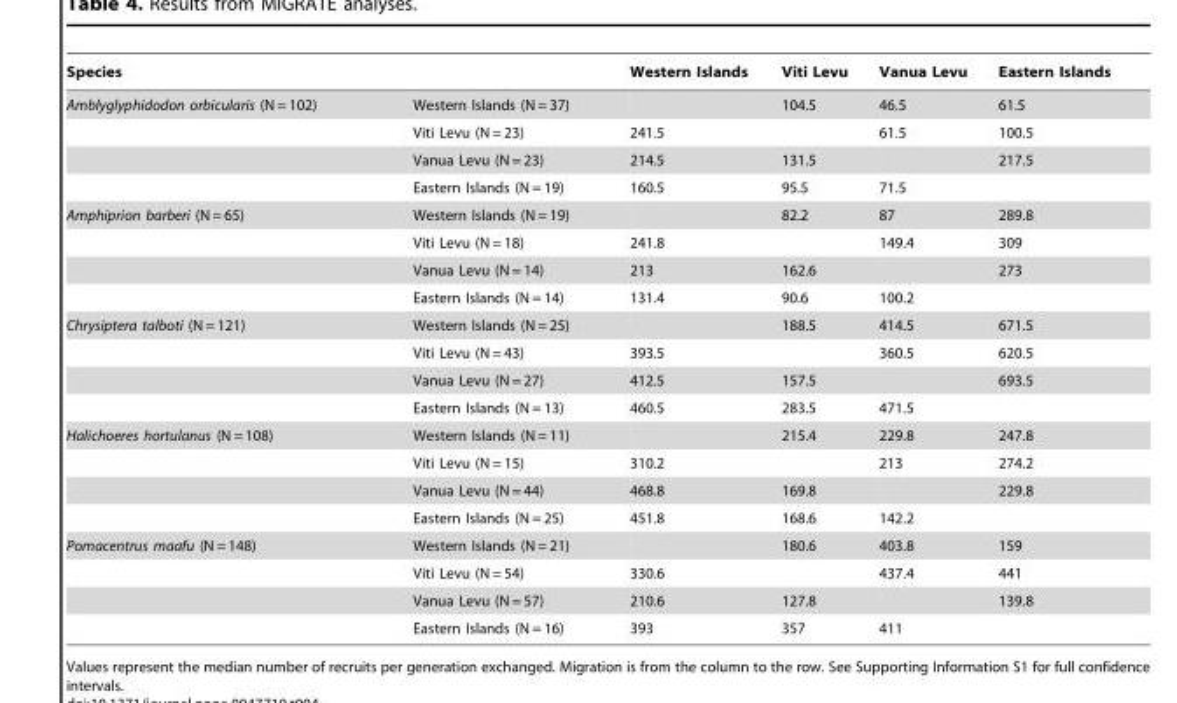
<table><thead><tr><td>Species</td><td></td><td>Western Islands</td><td>Viti Levu</td><td>Vanua Levu</td><td>Eastern Islands</td></tr></thead><tbody><tr><td rowspan="4">Amblyglyphidodon orbicularis (N = 102)</td><td>Western Islands (N = 37)</td><td></td><td>104.5</td><td>46.5</td><td>61.5</td></tr><tr><td>Viti Levu (N = 23)</td><td>241.5</td><td></td><td>61.5</td><td>100.5</td></tr><tr><td>Vanua Levu (N = 23)</td><td>214.5</td><td>131.5</td><td></td><td>217.5</td></tr><tr><td>Eastern Islands (N = 19)</td><td>160.5</td><td>95.5</td><td>71.5</td><td></td></tr><tr><td rowspan="4">Amphiprion barberi (N = 65)</td><td>Western Islands (N = 19)</td><td></td><td>82.2</td><td>87</td><td>289.8</td></tr><tr><td>Viti Levu (N = 18)</td><td>241.8</td><td></td><td>149.4</td><td>309</td></tr><tr><td>Vanua Levu (N = 14)</td><td>213</td><td>162.6</td><td></td><td>273</td></tr><tr><td>Eastern Islands (N = 14)</td><td>131.4</td><td>90.6</td><td>100.2</td><td></td></tr><tr><td rowspan="4">Chrysiptera talboti (N = 121)</td><td>Western Islands (N = 25)</td><td></td><td>188.5</td><td>414.5</td><td>671.5</td></tr><tr><td>Viti Levu (N = 43)</td><td>393.5</td><td></td><td>360.5</td><td>620.5</td></tr><tr><td>Vanua Levu (N = 27)</td><td>412.5</td><td>157.5</td><td></td><td>693.5</td></tr><tr><td>Eastern Islands (N = 13)</td><td>460.5</td><td>283.5</td><td>471.5</td><td></td></tr><tr><td rowspan="4">Halichoeres hortulanus (N = 108)</td><td>Western Islands (N = 11)</td><td></td><td>215.4</td><td>229.8</td><td>247.8</td></tr><tr><td>Viti Levu (N = 15)</td><td>310.2</td><td></td><td>213</td><td>274.2</td></tr><tr><td>Vanua Levu (N = 44)</td><td>468.8</td><td>169.8</td><td></td><td>229.8</td></tr><tr><td>Eastern Islands (N = 25)</td><td>451.8</td><td>168.6</td><td>142.2</td><td></td></tr><tr><td rowspan="4">Pomacentrus maafu (N = 148)</td><td>Western Islands (N = 21)</td><td></td><td>180.6</td><td>403.8</td><td>159</td></tr><tr><td>Viti Levu (N = 54)</td><td>330.6</td><td></td><td>437.4</td><td>441</td></tr><tr><td>Vanua Levu (N = 57)</td><td>210.6</td><td>127.8</td><td></td><td>139.8</td></tr><tr><td>Eastern Islands (N = 16)</td><td>393</td><td>357</td><td>411</td><td></td></tr></tbody></table>